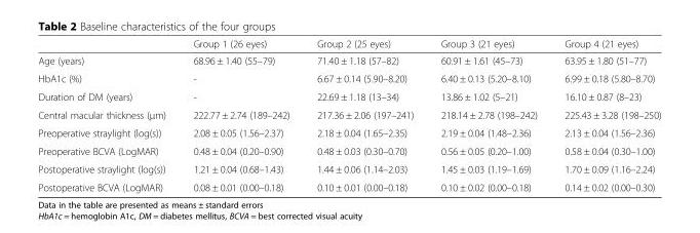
<table><thead><tr><td></td><td>Group 1 (26 eyes)</td><td>Group 2 (25 eyes)</td><td>Group 3 (21 eyes)</td><td>Group 4 (21 eyes)</td></tr></thead><tbody><tr><td>Age (years)</td><td>68.96 ± 1.40 (55–79)</td><td>71.40 ± 1.18 (57–82)</td><td>60.91 ± 1.61 (45–73)</td><td>63.95 ± 1.80 (51–77)</td></tr><tr><td>HbA1c (%)</td><td>-</td><td>6.67 ± 0.14 (5.90–8.20)</td><td>6.40 ± 0.13 (5.20–8.10)</td><td>6.99 ± 0.18 (5.80–8.70)</td></tr><tr><td>Duration of DM (years)</td><td>-</td><td>22.69 ± 1.18 (13–34)</td><td>13.86 ± 1.02 (5–21)</td><td>16.10 ± 0.87 (8–23)</td></tr><tr><td>Central macular thickness (μm)</td><td>222.77 ± 2.74 (189–242)</td><td>217.36 ± 2.06 (197–241)</td><td>218.14 ± 2.78 (198–242)</td><td>225.43 ± 3.28 (198–250)</td></tr><tr><td>Preoperative straylight (log(s))</td><td>2.08 ± 0.05 (1.56–2.37)</td><td>2.18 ± 0.04 (1.65–2.35)</td><td>2.19 ± 0.04 (1.48–2.36)</td><td>2.13 ± 0.04 (1.56–2.36)</td></tr><tr><td>Preoperative BCVA (LogMAR)</td><td>0.48 ± 0.04 (0.20–0.90)</td><td>0.48 ± 0.03 (0.30–0.70)</td><td>0.56 ± 0.05 (0.20–1.00)</td><td>0.58 ± 0.04 (0.30–1.00)</td></tr><tr><td>Postoperative straylight (log(s))</td><td>1.21 ± 0.04 (0.68–1.43)</td><td>1.44 ± 0.06 (1.14–2.03)</td><td>1.45 ± 0.03 (1.19–1.69)</td><td>1.70 ± 0.09 (1.16–2.24)</td></tr><tr><td>Postoperative BCVA (LogMAR)</td><td>0.08 ± 0.01 (0.00–0.18)</td><td>0.10 ± 0.01 (0.00–0.18)</td><td>0.10 ± 0.02 (0.00–0.18)</td><td>0.14 ± 0.02 (0.00–0.30)</td></tr></tbody></table>